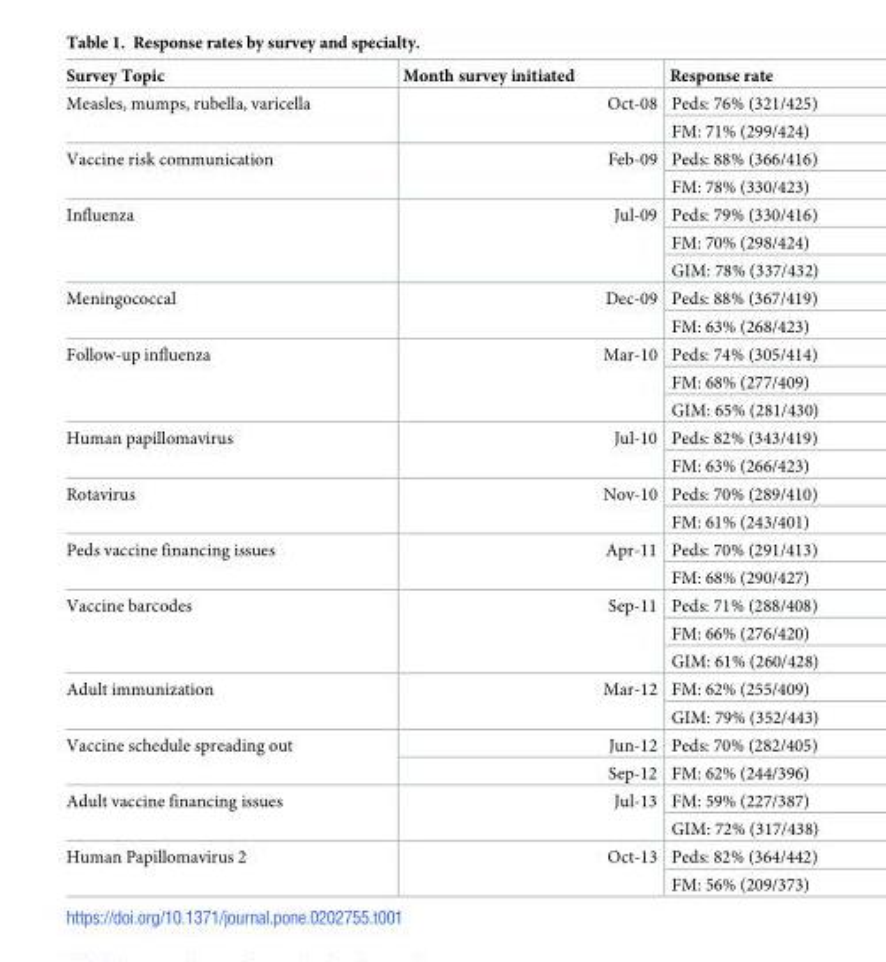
<table><thead><tr><td>Survey Topic</td><td>Month survey initiated</td><td>Response rate</td></tr></thead><tbody><tr><td rowspan="2">Measles, mumps, rubella, varicella</td><td rowspan="2">Oct-08</td><td>Peds: 76% (321/425)</td></tr><tr><td>FM: 71% (299/424)</td></tr><tr><td rowspan="2">Vaccine risk communication</td><td rowspan="2">Feb-09</td><td>Peds: 88% (366/416)</td></tr><tr><td>FM: 78% (330/423)</td></tr><tr><td rowspan="3">Influenza</td><td rowspan="3">Jul-09</td><td>Peds: 79% (330/416)</td></tr><tr><td>FM: 70% (298/424)</td></tr><tr><td>GIM: 78% (337/432)</td></tr><tr><td rowspan="2">Meningococcal</td><td rowspan="2">Dec-09</td><td>Peds: 88% (367/419)</td></tr><tr><td>FM: 63% (268/423)</td></tr><tr><td rowspan="3">Follow-up influenza</td><td rowspan="3">Mar-10</td><td>Peds: 74% (305/414)</td></tr><tr><td>FM: 68% (277/409)</td></tr><tr><td>GIM: 65% (281/430)</td></tr><tr><td rowspan="2">Human papillomavirus</td><td rowspan="2">Jul-10</td><td>Peds: 82% (343/419)</td></tr><tr><td>FM: 63% (266/423)</td></tr><tr><td rowspan="2">Rotavirus</td><td rowspan="2">Nov-10</td><td>Peds: 70% (289/410)</td></tr><tr><td>FM: 61% (243/401)</td></tr><tr><td rowspan="2">Peds vaccine financing issues</td><td rowspan="2">Apr-11</td><td>Peds: 70% (291/413)</td></tr><tr><td>FM: 68% (290/427)</td></tr><tr><td rowspan="3">Vaccine barcodes</td><td rowspan="3">Sep-11</td><td>Peds: 71% (288/408)</td></tr><tr><td>FM: 66% (276/420)</td></tr><tr><td>GIM: 61% (260/428)</td></tr><tr><td rowspan="2">Adult immunization</td><td rowspan="2">Mar-12</td><td>FM: 62% (255/409)</td></tr><tr><td>GIM: 79% (352/443)</td></tr><tr><td rowspan="2">Vaccine schedule spreading out</td><td>Jun-12</td><td>Peds: 70% (282/405)</td></tr><tr><td>Sep-12</td><td>FM: 62% (244/396)</td></tr><tr><td rowspan="2">Adult vaccine financing issues</td><td rowspan="2">Jul-13</td><td>FM: 59% (227/387)</td></tr><tr><td>GIM: 72% (317/438)</td></tr><tr><td rowspan="2">Human Papillomavirus 2</td><td rowspan="2">Oct-13</td><td>Peds: 82% (364/442)</td></tr><tr><td>FM: 56% (209/373)</td></tr></tbody></table>